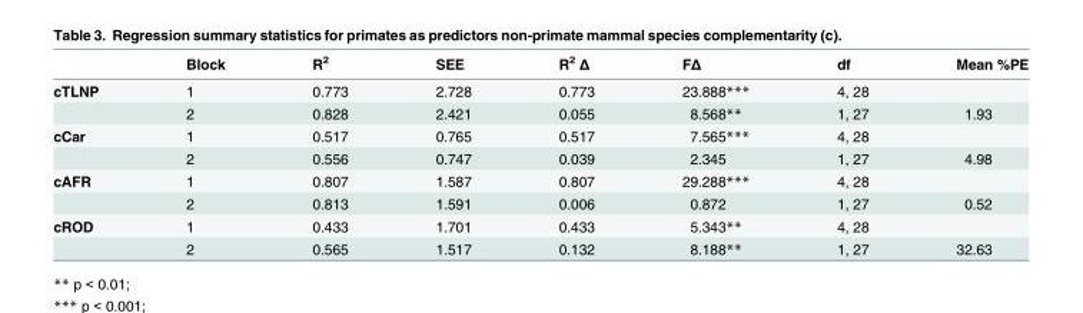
<table><thead><tr><td></td><td>Block</td><td>R<sup>2</sup></td><td>SEE</td><td>R<sup>2</sup> Δ</td><td>FΔ</td><td>df</td><td>Mean %PE</td></tr></thead><tbody><tr><td rowspan="2">cTLNP</td><td>1</td><td>0.773</td><td>2.728</td><td>0.773</td><td>23.888***</td><td>4, 28</td><td></td></tr><tr><td>2</td><td>0.828</td><td>2.421</td><td>0.055</td><td>8.568**</td><td>1, 27</td><td>1.93</td></tr><tr><td rowspan="2">cCar</td><td>1</td><td>0.517</td><td>0.765</td><td>0.517</td><td>7.565***</td><td>4, 28</td><td></td></tr><tr><td>2</td><td>0.556</td><td>0.747</td><td>0.039</td><td>2.345</td><td>1, 27</td><td>4.98</td></tr><tr><td rowspan="2">cAFR</td><td>1</td><td>0.807</td><td>1.587</td><td>0.807</td><td>29.288***</td><td>4, 28</td><td></td></tr><tr><td>2</td><td>0.813</td><td>1.591</td><td>0.006</td><td>0.872</td><td>1, 27</td><td>0.52</td></tr><tr><td rowspan="2">cROD</td><td>1</td><td>0.433</td><td>1.701</td><td>0.433</td><td>5.343**</td><td>4, 28</td><td></td></tr><tr><td>2</td><td>0.565</td><td>1.517</td><td>0.132</td><td>8.188**</td><td>1, 27</td><td>32.63</td></tr></tbody></table>